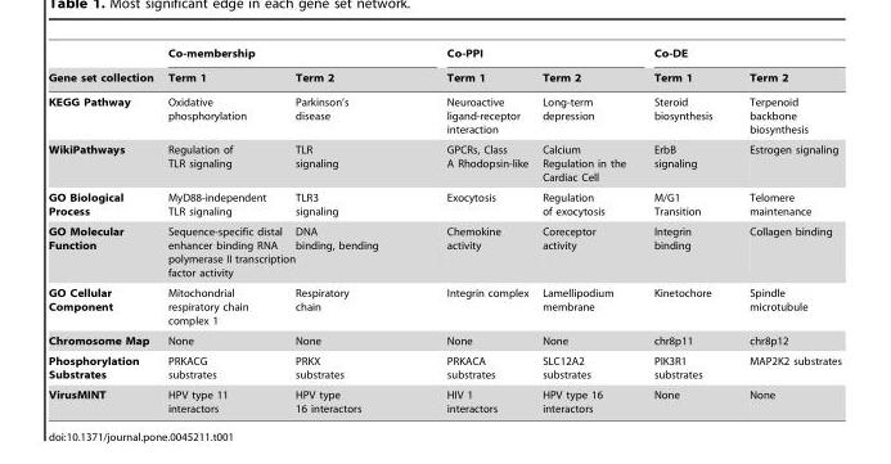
<table><thead><tr><td rowspan="2">Gene set collection</td><td colspan="2">Co-membership</td><td colspan="2">Co-PPI</td><td colspan="2">Co-DE</td></tr><tr><td>Term 1</td><td>Term 2</td><td>Term 1</td><td>Term 2</td><td>Term 1</td><td>Term 2</td></tr></thead><tbody><tr><td>KEGG Pathway</td><td>Oxidative phosphorylation</td><td>Parkinson’s disease</td><td>Neuroactive ligand-receptor interaction</td><td>Long-term depression</td><td>Steroid biosynthesis</td><td>Terpenoid backbone biosynthesis</td></tr><tr><td>WikiPathways</td><td>Regulation of TLR signaling</td><td>TLR signaling</td><td>GPCRs, Class A Rhodopsin-like</td><td>Calcium Regulation in the Cardiac Cell</td><td>ErbB signaling</td><td>Estrogen signaling</td></tr><tr><td>GO Biological Process</td><td>MyD88-independent TLR signaling</td><td>TLR3 signaling</td><td>Exocytosis</td><td>Regulation of exocytosis</td><td>M/G1 Transition</td><td>Telomere maintenance</td></tr><tr><td>GO Molecular Function</td><td>Sequence-specific distal enhancer binding RNA polymerase II transcription factor activity</td><td>DNA binding, bending</td><td>Chemokine activity</td><td>Coreceptor activity</td><td>Integrin binding</td><td>Collagen binding</td></tr><tr><td>GO Cellular Component</td><td>Mitochondrial respiratory chain complex 1</td><td>Respiratory chain</td><td>Integrin complex</td><td>Lamellipodium membrane</td><td>Kinetochore</td><td>Spindle microtubule</td></tr><tr><td>Chromosome Map</td><td>None</td><td>None</td><td>None</td><td>None</td><td>chr8p11</td><td>chr8p12</td></tr><tr><td>Phosphorylation Substrates</td><td>PRKACG substrates</td><td>PRKX substrates</td><td>PRKACA substrates</td><td>SLC12A2 substrates</td><td>PIK3R1 substrates</td><td>MAP2K2 substrates</td></tr><tr><td>VirusMINT</td><td>HPV type 11 interactors</td><td>HPV type 16 interactors</td><td>HIV 1 interactors</td><td>HPV type 16 interactors</td><td>None</td><td>None</td></tr></tbody></table>